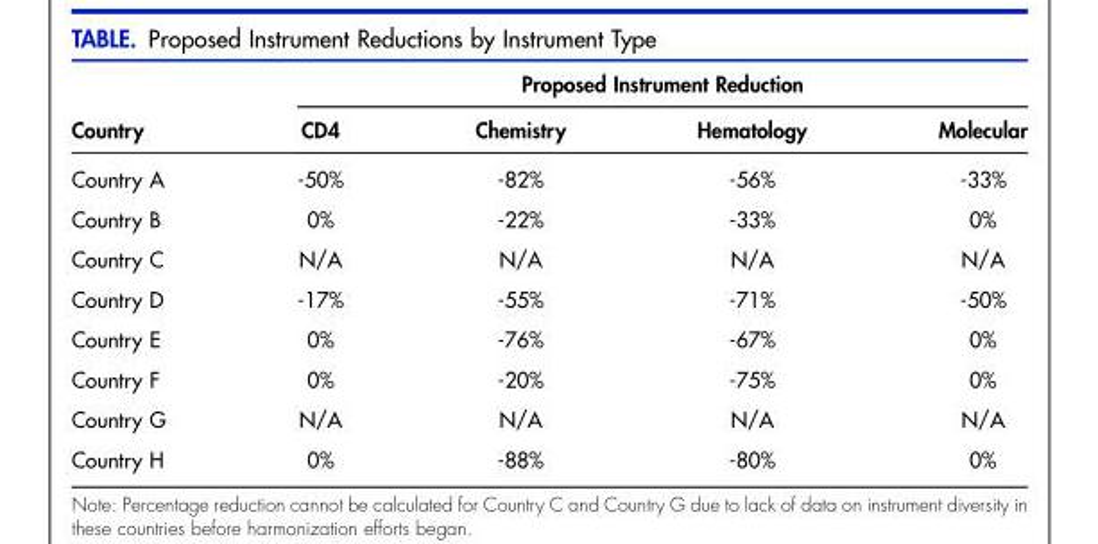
<table><thead><tr><td rowspan="2">Country</td><td colspan="4">Proposed Instrument Reduction</td></tr><tr><td>CD4</td><td>Chemistry</td><td>Hematology</td><td>Molecular</td></tr></thead><tbody><tr><td>Country A</td><td>-50%</td><td>-82%</td><td>-56%</td><td>-33%</td></tr><tr><td>Country B</td><td>0%</td><td>-22%</td><td>-33%</td><td>0%</td></tr><tr><td>Country C</td><td>N/A</td><td>N/A</td><td>N/A</td><td>N/A</td></tr><tr><td>Country D</td><td>-17%</td><td>-55%</td><td>-71%</td><td>-50%</td></tr><tr><td>Country E</td><td>0%</td><td>-76%</td><td>-67%</td><td>0%</td></tr><tr><td>Country F</td><td>0%</td><td>-20%</td><td>-75%</td><td>0%</td></tr><tr><td>Country G</td><td>N/A</td><td>N/A</td><td>N/A</td><td>N/A</td></tr><tr><td>Country H</td><td>0%</td><td>-88%</td><td>-80%</td><td>0%</td></tr></tbody></table>